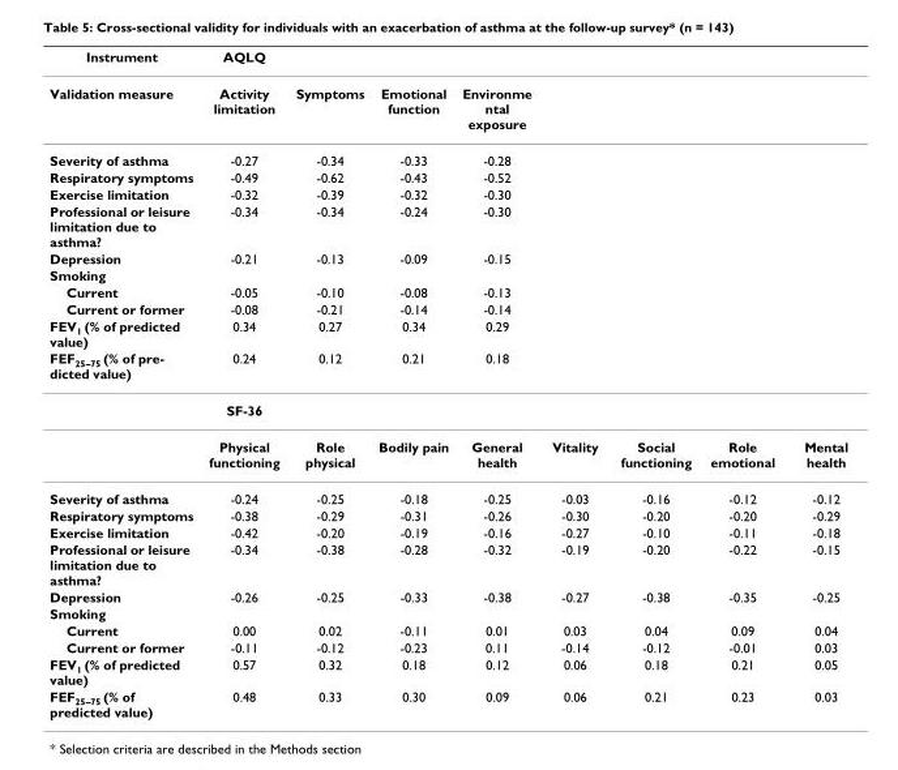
<table><thead><tr><td>Instrument</td><td>AQLQ</td><td></td><td></td><td></td><td></td><td></td><td></td><td></td></tr></thead><tbody><tr><td>Validation measure</td><td>Activity limitation</td><td>Symptoms</td><td>Emotional function</td><td>Environme ntal exposure</td><td></td><td></td><td></td><td></td></tr><tr><td>Severity of asthma</td><td>-0.27</td><td>-0.34</td><td>-0.33</td><td>-0.28</td><td></td><td></td><td></td><td></td></tr><tr><td>Respiratory symptoms</td><td>-0.49</td><td>-0.62</td><td>-0.43</td><td>-0.52</td><td></td><td></td><td></td><td></td></tr><tr><td>Exercise limitation</td><td>-0.32</td><td>-0.39</td><td>-0.32</td><td>-0.30</td><td></td><td></td><td></td><td></td></tr><tr><td>Professional or leisure limitation due to asthma?</td><td>-0.34</td><td>-0.34</td><td>-0.24</td><td>-0.30</td><td></td><td></td><td></td><td></td></tr><tr><td>Depression</td><td>-0.21</td><td>-0.13</td><td>-0.09</td><td>-0.15</td><td></td><td></td><td></td><td></td></tr><tr><td colspan="9">Smoking</td></tr><tr><td>Current</td><td>-0.05</td><td>-0.10</td><td>-0.08</td><td>-0.13</td><td colspan="4"></td></tr><tr><td>Current or former</td><td>-0.08</td><td>-0.21</td><td>-0.14</td><td>-0.14</td><td></td><td></td><td></td><td></td></tr><tr><td>FEV<sub>1</sub> (% of predicted value)</td><td>0.34</td><td>0.27</td><td>0.34</td><td>0.29</td><td></td><td></td><td></td><td></td></tr><tr><td rowspan="3">FEF25–75 (% of pre- dicted value)</td><td>0.24</td><td>0.12</td><td>0.21</td><td>0.18</td><td></td><td></td><td></td><td></td></tr><tr><td>SF-36</td><td></td><td></td><td></td><td></td><td></td><td></td><td></td></tr><tr><td>Physical functioning</td><td>Role physical</td><td>Bodily pain</td><td>General health</td><td>Vitality</td><td>Social functioning</td><td>Role emotional</td><td>Mental health</td></tr><tr><td>Severity of asthma</td><td>-0.24</td><td>-0.25</td><td>-0.18</td><td>-0.25</td><td>-0.03</td><td>-0.16</td><td>-0.12</td><td>-0.12</td></tr><tr><td>Respiratory symptoms</td><td>-0.38</td><td>-0.29</td><td>-0.31</td><td>-0.26</td><td>-0.30</td><td>-0.20</td><td>-0.20</td><td>-0.29</td></tr><tr><td>Exercise limitation</td><td>-0.42</td><td>-0.20</td><td>-0.19</td><td>-0.16</td><td>-0.27</td><td>-0.10</td><td>-0.11</td><td>-0.18</td></tr><tr><td>Professional or leisure limitation due to asthma?</td><td>-0.34</td><td>-0.38</td><td>-0.28</td><td>-0.32</td><td>-0.19</td><td>-0.20</td><td>-0.22</td><td>-0.15</td></tr><tr><td>Depression</td><td>-0.26</td><td>-0.25</td><td>-0.33</td><td>-0.38</td><td>-0.27</td><td>-0.38</td><td>-0.35</td><td>-0.25</td></tr><tr><td colspan="9">Smoking</td></tr><tr><td>Current</td><td>0.00</td><td>0.02</td><td>-0.11</td><td>0.01</td><td>0.03</td><td>0.04</td><td>0.09</td><td>0.04</td></tr><tr><td>Current or former</td><td>-0.11</td><td>-0.12</td><td>-0.23</td><td>0.11</td><td>-0.14</td><td>-0.12</td><td>-0.01</td><td>0.03</td></tr><tr><td>FEV<sub>1</sub> (% of predicted value)</td><td>0.57</td><td>0.32</td><td>0.18</td><td>0.12</td><td>0.06</td><td>0.18</td><td>0.21</td><td>0.05</td></tr><tr><td>FEF<sub>25–75</sub> (% of predicted value)</td><td>0.48</td><td>0.33</td><td>0.30</td><td>0.09</td><td>0.06</td><td>0.21</td><td>0.23</td><td>0.03</td></tr></tbody></table>